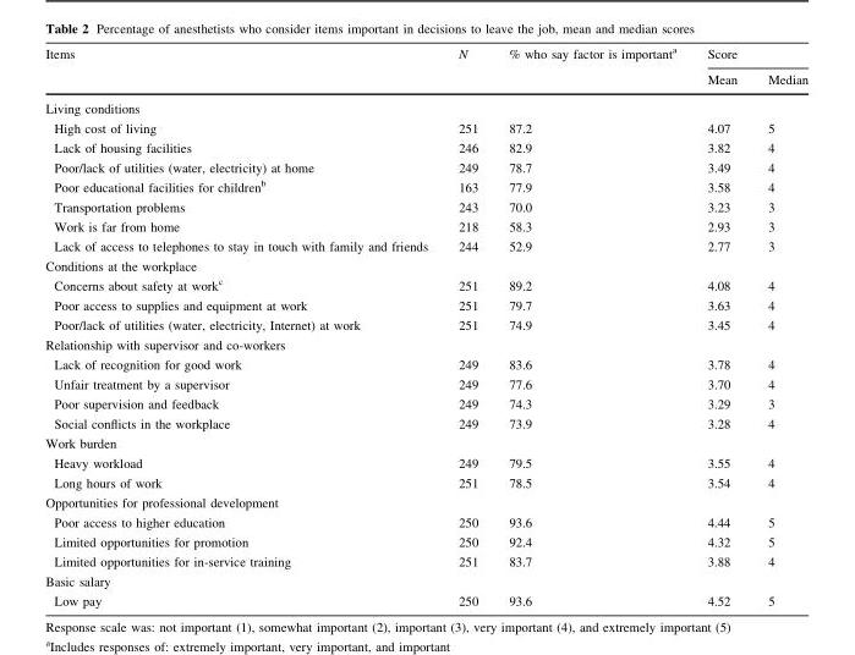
<table><thead><tr><td rowspan="2">Items</td><td rowspan="2">N</td><td rowspan="2">% who say factor is important<sup>a</sup></td><td colspan="2">Score</td></tr><tr><td>Mean</td><td>Median</td></tr></thead><tbody><tr><td colspan="5">Living conditions</td></tr><tr><td>High cost of living</td><td>251</td><td>87.2</td><td>4.07</td><td>5</td></tr><tr><td>Lack of housing facilities</td><td>246</td><td>82.9</td><td>3.82</td><td>4</td></tr><tr><td>Poor/lack of utilities (water, electricity) at home</td><td>249</td><td>78.7</td><td>3.49</td><td>4</td></tr><tr><td>Poor educational facilities for children<sup>b</sup></td><td>163</td><td>77.9</td><td>3.58</td><td>4</td></tr><tr><td>Transportation problems</td><td>243</td><td>70.0</td><td>3.23</td><td>3</td></tr><tr><td>Work is far from home</td><td>218</td><td>58.3</td><td>2.93</td><td>3</td></tr><tr><td>Lack of access to telephones to stay in touch with family and friends</td><td>244</td><td>52.9</td><td>2.77</td><td>3</td></tr><tr><td colspan="5">Conditions at the workplace</td></tr><tr><td>Concerns about safety at work<sup>c</sup></td><td>251</td><td>89.2</td><td>4.08</td><td>4</td></tr><tr><td>Poor access to supplies and equipment at work</td><td>251</td><td>79.7</td><td>3.63</td><td>4</td></tr><tr><td>Poor/lack of utilities (water, electricity, Internet) at work</td><td>251</td><td>74.9</td><td>3.45</td><td>4</td></tr><tr><td colspan="5">Relationship with supervisor and co-workers</td></tr><tr><td>Lack of recognition for good work</td><td>249</td><td>83.6</td><td>3.78</td><td>4</td></tr><tr><td>Unfair treatment by a supervisor</td><td>249</td><td>77.6</td><td>3.70</td><td>4</td></tr><tr><td>Poor supervision and feedback</td><td>249</td><td>74.3</td><td>3.29</td><td>3</td></tr><tr><td>Social conflicts in the workplace</td><td>249</td><td>73.9</td><td>3.28</td><td>4</td></tr><tr><td colspan="5">Work burden</td></tr><tr><td>Heavy workload</td><td>249</td><td>79.5</td><td>3.55</td><td>4</td></tr><tr><td>Long hours of work</td><td>251</td><td>78.5</td><td>3.54</td><td>4</td></tr><tr><td colspan="5">Opportunities for professional development</td></tr><tr><td>Poor access to higher education</td><td>250</td><td>93.6</td><td>4.44</td><td>5</td></tr><tr><td>Limited opportunities for promotion</td><td>250</td><td>92.4</td><td>4.32</td><td>5</td></tr><tr><td>Limited opportunities for in-service training</td><td>251</td><td>83.7</td><td>3.88</td><td>4</td></tr><tr><td colspan="5">Basic salary</td></tr><tr><td>Low pay</td><td>250</td><td>93.6</td><td>4.52</td><td>5</td></tr></tbody></table>